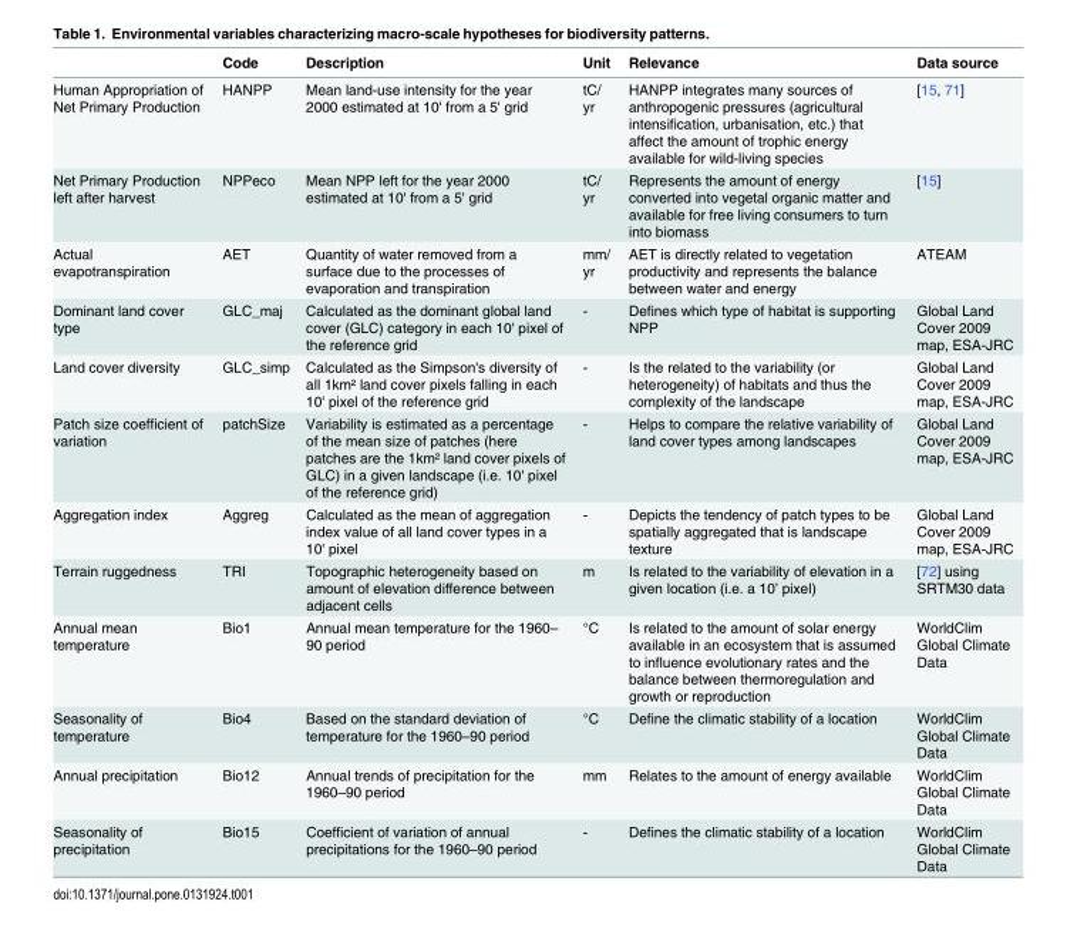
<table><thead><tr><td></td><td>Code</td><td>Description</td><td>Unit</td><td>Relevance</td><td>Data source</td></tr></thead><tbody><tr><td>Human Appropriation of Net Primary Production</td><td>HANPP</td><td>Mean land-use intensity for the year 2000 estimated at 10&#x27; from a 5&#x27; grid</td><td>tC/ yr</td><td>HANPP integrates many sources of anthropogenic pressures (agricultural intensification, urbanisation, etc.) that affect the amount of trophic energy available for wild-living species</td><td>[15, 71]</td></tr><tr><td>Net Primary Production left after harvest</td><td>NPPeco</td><td>Mean NPP left for the year 2000 estimated at 10&#x27; from a 5&#x27; grid</td><td>tC/ yr</td><td>Represents the amount of energy converted into vegetal organic matter and available for free living consumers to turn into biomass</td><td>[15]</td></tr><tr><td>Actual evapotranspiration</td><td>AET</td><td>Quantity of water removed from a surface due to the processes of evaporation and transpiration</td><td>mm/ yr</td><td>AET is directly related to vegetation productivity and represents the balance between water and energy</td><td>ATEAM</td></tr><tr><td>Dominant land cover type</td><td>GLC_maj</td><td>Calculated as the dominant global land cover (GLC) category in each 10&#x27; pixel of the reference grid</td><td>-</td><td>Defines which type of habitat is supporting NPP</td><td>Global Land Cover 2009 map, ESA-JRC</td></tr><tr><td>Land cover diversity</td><td>GLC_simp</td><td>Calculated as the Simpson&#x27;s diversity of all 1km² land cover pixels falling in each 10&#x27; pixel of the reference grid</td><td>-</td><td>Is the related to the variability (or heterogeneity) of habitats and thus the complexity of the landscape</td><td>Global Land Cover 2009 map, ESA-JRC</td></tr><tr><td>Patch size coefficient of variation</td><td>patchSize</td><td>Variability is estimated as a percentage of the mean size of patches (here patches are the 1km² land cover pixels of GLC) in a given landscape (i.e. 10&#x27; pixel of the reference grid)</td><td>-</td><td>Helps to compare the relative variability of land cover types among landscapes</td><td>Global Land Cover 2009 map, ESA-JRC</td></tr><tr><td>Aggregation index</td><td>Aggreg</td><td>Calculated as the mean of aggregation index value of all land cover types in a 10&#x27; pixel</td><td>-</td><td>Depicts the tendency of patch types to be spatially aggregated that is landscape texture</td><td>Global Land Cover 2009 map, ESA-JRC</td></tr><tr><td>Terrain ruggedness</td><td>TRI</td><td>Topographic heterogeneity based on amount of elevation difference between adjacent cells</td><td>m</td><td>Is related to the variability of elevation in a given location (i.e. a 10’ pixel)</td><td>[72] using SRTM30 data</td></tr><tr><td>Annual mean temperature</td><td>Bio1</td><td>Annual mean temperature for the 1960– 90 period</td><td>°C</td><td>Is related to the amount of solar energy available in an ecosystem that is assumed to influence evolutionary rates and the balance between thermoregulation and growth or reproduction</td><td>WorldClim Global Climate Data</td></tr><tr><td>Seasonality of temperature</td><td>Bio4</td><td>Based on the standard deviation of temperature for the 1960–90 period</td><td>°C</td><td>Define the climatic stability of a location</td><td>WorldClim Global Climate Data</td></tr><tr><td>Annual precipitation</td><td>Bio12</td><td>Annual trends of precipitation for the 1960–90 period</td><td>mm</td><td>Relates to the amount of energy available</td><td>WorldClim Global Climate Data</td></tr><tr><td>Seasonality of precipitation</td><td>Bio15</td><td>Coefficient of variation of annual precipitations for the 1960–90 period</td><td>-</td><td>Defines the climatic stability of a location</td><td>WorldClim Global Climate Data</td></tr></tbody></table>